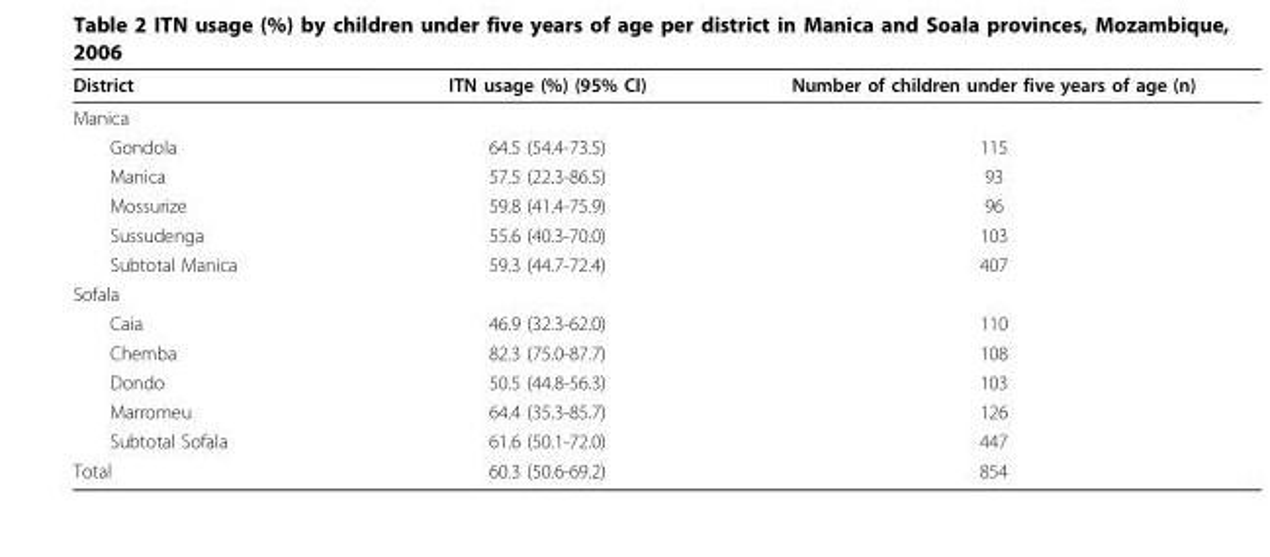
<table><thead><tr><td>District</td><td>ITN usage (%) (95% CI)</td><td>Number of children under five years of age (n)</td></tr></thead><tbody><tr><td colspan="3">Manica</td></tr><tr><td>Gondola</td><td>64.5 (54.4-73.5)</td><td>115</td></tr><tr><td>Manica</td><td>57.5 (22.3-86.5)</td><td>93</td></tr><tr><td>Mossurize</td><td>59.8 (41.4-75.9)</td><td>96</td></tr><tr><td>Sussudenga</td><td>55.6 (40.3-70.0)</td><td>103</td></tr><tr><td>Subtotal Manica</td><td>59.3 (44.7-72.4)</td><td>407</td></tr><tr><td colspan="3">Sofala</td></tr><tr><td>Caia</td><td>46.9 (32.3-62.0)</td><td>110</td></tr><tr><td>Chemba</td><td>82.3 (75.0-87.7)</td><td>108</td></tr><tr><td>Dondo</td><td>50.5 (44.8-56.3)</td><td>103</td></tr><tr><td>Marromeu</td><td>64.4 (35.3-85.7)</td><td>126</td></tr><tr><td>Subtotal Sofala</td><td>61.6 (50.1-72.0)</td><td>447</td></tr><tr><td>Total</td><td>60.3 (50.6-69.2)</td><td>854</td></tr></tbody></table>